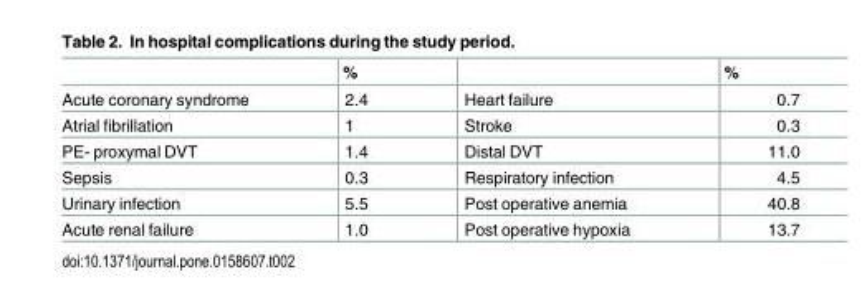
<table><thead><tr><td></td><td>%</td><td></td><td>%</td></tr></thead><tbody><tr><td>Acute coronary syndrome</td><td>2.4</td><td>Heart failure</td><td>0.7</td></tr><tr><td>Atrial fibrillation</td><td>1</td><td>Stroke</td><td>0.3</td></tr><tr><td>PE- proxymal DVT</td><td>1.4</td><td>Distal DVT</td><td>11.0</td></tr><tr><td>Sepsis</td><td>0.3</td><td>Respiratory infection</td><td>4.5</td></tr><tr><td>Urinary infection</td><td>5.5</td><td>Post operative anemia</td><td>40.8</td></tr><tr><td>Acute renal failure</td><td>1.0</td><td>Post operative hypoxia</td><td>13.7</td></tr></tbody></table>